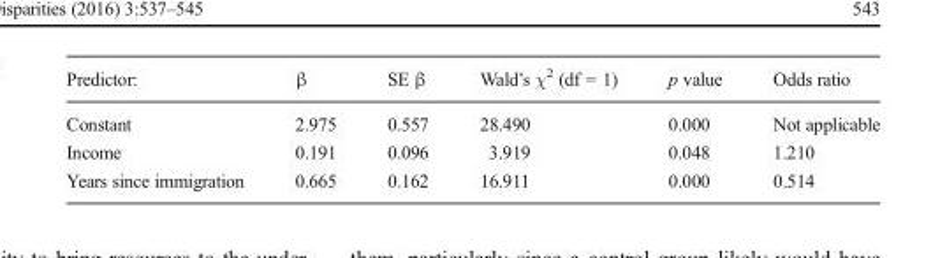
<table><thead><tr><td>Predictor:</td><td>β</td><td>SE β</td><td>Wald’s χ<sup>2</sup> (df = 1)</td><td>p value</td><td>Odds ratio</td></tr></thead><tbody><tr><td>Constant</td><td>2.975</td><td>0.557</td><td>28.490</td><td>0.000</td><td>Not applicable</td></tr><tr><td>Income</td><td>0.191</td><td>0.096</td><td>3.919</td><td>0.048</td><td>1.210</td></tr><tr><td>Years since immigration</td><td>0.665</td><td>0.162</td><td>16.911</td><td>0.000</td><td>0.514</td></tr></tbody></table>